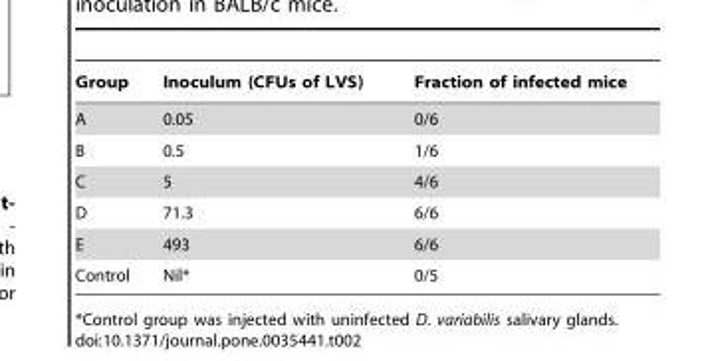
<table><thead><tr><td>Group</td><td>Inoculum (CFUs of LVS)</td><td>Fraction of infected mice</td></tr></thead><tbody><tr><td>A</td><td>0.05</td><td>0/6</td></tr><tr><td>B</td><td>0.5</td><td>1/6</td></tr><tr><td>C</td><td>5</td><td>4/6</td></tr><tr><td>D</td><td>71.3</td><td>6/6</td></tr><tr><td>E</td><td>493</td><td>6/6</td></tr><tr><td>Control</td><td>Nil*</td><td>0/5</td></tr></tbody></table>